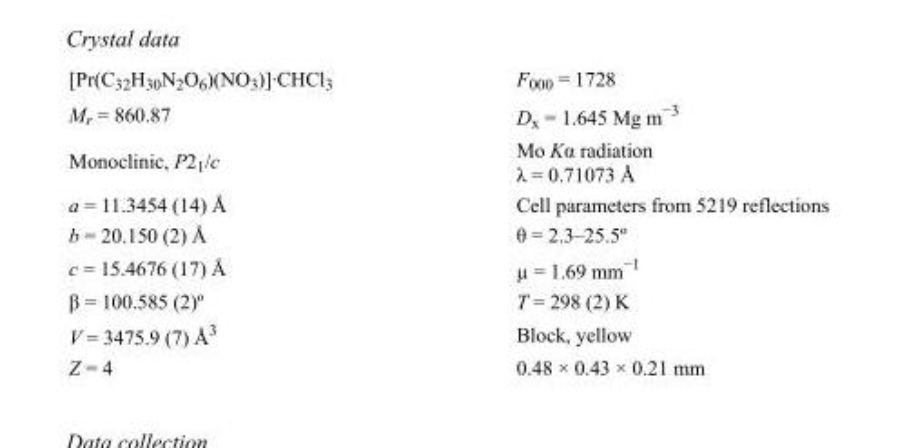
<table><tbody><tr><td>[Pr(C<sub>32</sub>H<sub>30</sub>N<sub>2</sub>O<sub>6</sub>)(NO<sub>3</sub>)]·CHCl<sub>3</sub></td><td>F<sub>000</sub> = 1728</td></tr><tr><td>M<sub>r</sub> = 860.87</td><td>D<sub>x</sub> = 1.645 Mg m<sup>−3</sup></td></tr><tr><td>Monoclinic, P2<sub>1</sub>/c</td><td>Mo Kα radiation λ = 0.71073 Å</td></tr><tr><td>a = 11.3454 (14) Å</td><td>Cell parameters from 5219 reflections</td></tr><tr><td>b = 20.150 (2) Å</td><td>θ = 2.3–25.5º</td></tr><tr><td>c = 15.4676 (17) Å</td><td>µ = 1.69 mm<sup>−1</sup></td></tr><tr><td>β = 100.585 (2)º</td><td>T = 298 (2) K</td></tr><tr><td>V = 3475.9 (7) Å<sup>3</sup></td><td>Block, yellow</td></tr><tr><td>Z = 4</td><td>0.48 × 0.43 × 0.21 mm</td></tr></tbody></table>